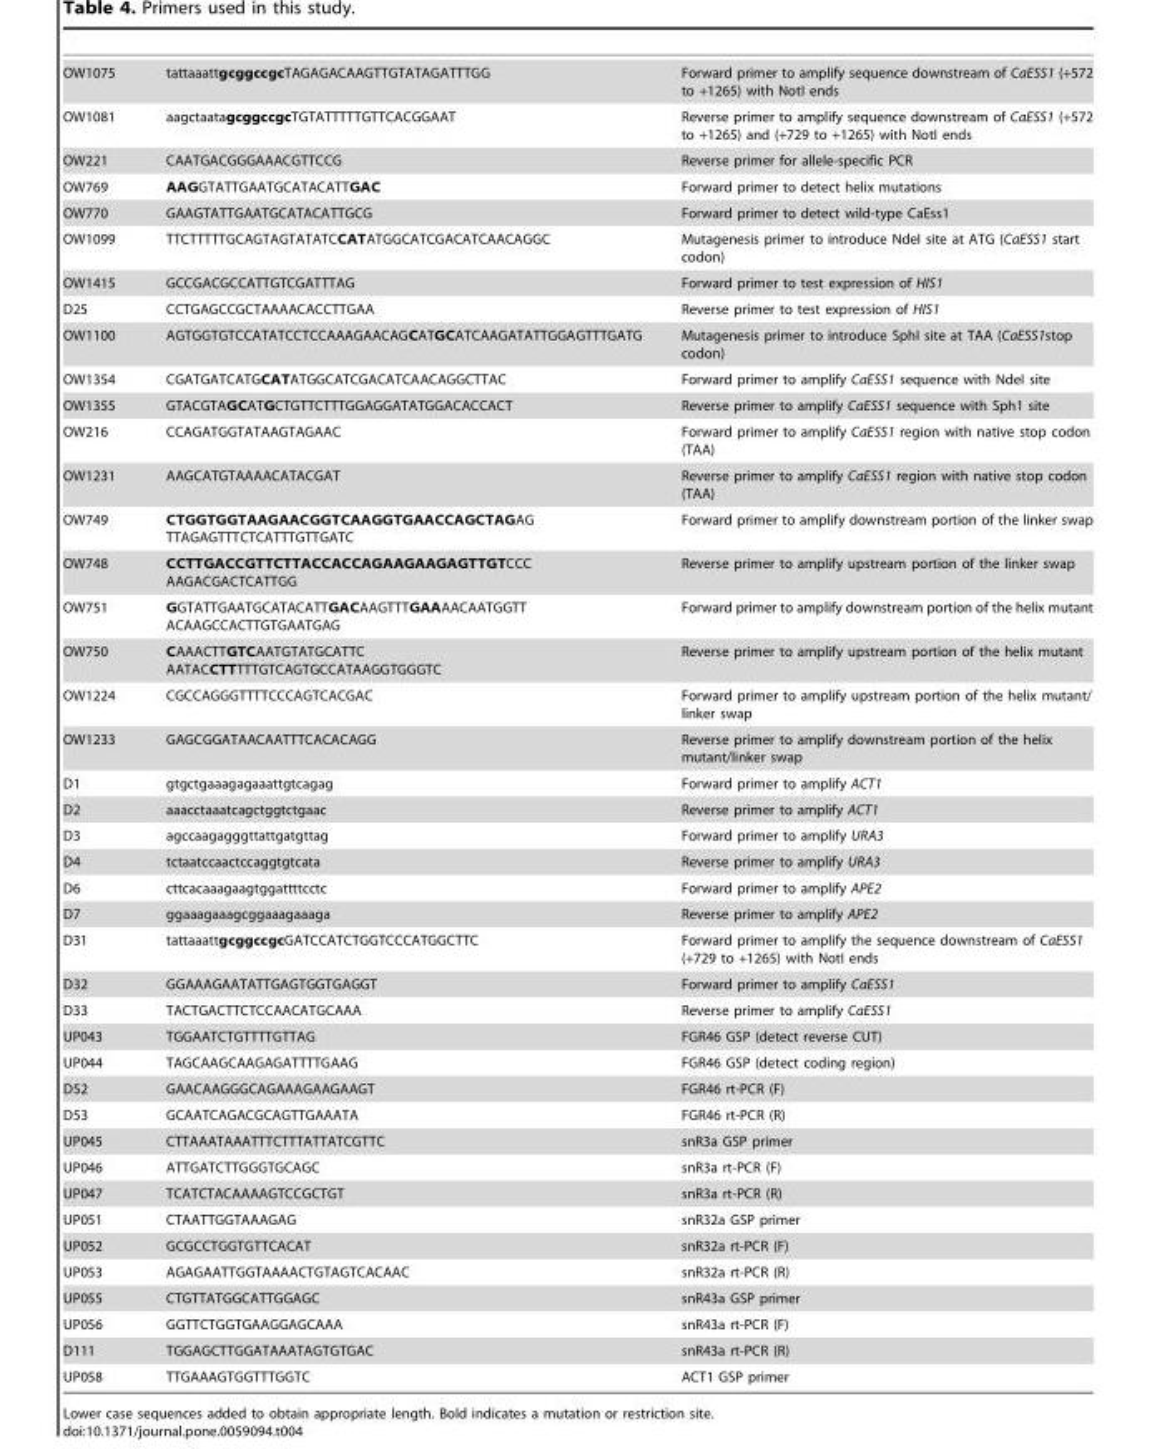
<table><tbody><tr><td>OW1075</td><td>tattaaattgcggccgcTAGAGACAAGTTGTATAGATTTGG</td><td>Forward primer to amplify sequence downstream of CaESS1 (+572 to +1265) with NotI ends</td></tr><tr><td>OW1081</td><td>aagctaatagcggccgcTGTATTTTTGTTCACGGAAT</td><td>Reverse primer to amplify sequence downstream of CaESS1 (+572 to +1265) and (+729 to +1265) with NotI ends</td></tr><tr><td>OW221</td><td>CAATGACGGGAAACGTTCCG</td><td>Reverse primer for allele-specific PCR</td></tr><tr><td>OW769</td><td>AAGGTATTGAATGCATACATTGAC</td><td>Forward primer to detect helix mutations</td></tr><tr><td>OW770</td><td>GAAGTATTGAATGCATACATTGCG</td><td>Forward primer to detect wild-type CaEss1</td></tr><tr><td>OW1099</td><td>TTCTTTTTGCAGTAGTATATCCATATGGCATCGACATCAACAGGC</td><td>Mutagenesis primer to introduce NdeI site at ATG (CaESS1 start codon)</td></tr><tr><td>OW1415</td><td>GCCGACGCCATTGTCGATTTAG</td><td>Forward primer to test expression of HIS1</td></tr><tr><td>D25</td><td>CCTGAGCCGCTAAAACACCTTGAA</td><td>Reverse primer to test expression of HIS1</td></tr><tr><td>OW1100</td><td>AGTGGTGTCCATATCCTCCAAAGAACAGCATGCATCAAGATATTGGAGTTTGATG</td><td>Mutagenesis primer to introduce SphI site at TAA (CaESS1stop codon)</td></tr><tr><td>OW1354</td><td>CGATGATCATGCATATGGCATCGACATCAACAGGCTTAC</td><td>Forward primer to amplify CaESS1 sequence with NdeI site</td></tr><tr><td>OW1355</td><td>GTACGTAGCATGCTGTTCTTTGGAGGATATGGACACCACT</td><td>Reverse primer to amplify CaESS1 sequence with Sph1 site</td></tr><tr><td>OW216</td><td>CCAGATGGTATAAGTAGAAC</td><td>Forward primer to amplify CaESS1 region with native stop codon (TAA)</td></tr><tr><td>OW1231</td><td>AAGCATGTAAAACATACGAT</td><td>Reverse primer to amplify CaESS1 region with native stop codon (TAA)</td></tr><tr><td>OW749</td><td>CTGGTGGTAAGAACGGTCAAGGTGAACCAGCTAGAG TTAGAGTTTCTCATTTGTTGATC</td><td>Forward primer to amplify downstream portion of the linker swap</td></tr><tr><td>OW748</td><td>CCTTGACCGTTCTTACCACCAGAAGAAGAGTTGTCCC AAGACGACTCATTGG</td><td>Reverse primer to amplify upstream portion of the linker swap</td></tr><tr><td>OW751</td><td>GGTATTGAATGCATACATTGACAAGTTTGAAAACAATGGTT ACAAGCCACTTGTGAATGAG</td><td>Forward primer to amplify downstream portion of the helix mutant</td></tr><tr><td>OW750</td><td>CAAACTTGTCAATGTATGCATTC AATACCTTTTTGTCAGTGCCATAAGGTGGGTC</td><td>Reverse primer to amplify upstream portion of the helix mutant</td></tr><tr><td>OW1224</td><td>CGCCAGGGTTTTCCCAGTCACGAC</td><td>Forward primer to amplify upstream portion of the helix mutant/ linker swap</td></tr><tr><td>OW1233</td><td>GAGCGGATAACAATTTCACACAGG</td><td>Reverse primer to amplify downstream portion of the helix mutant/linker swap</td></tr><tr><td>D1</td><td>gtgctgaaagagaaattgtcagag</td><td>Forward primer to amplify ACT1</td></tr><tr><td>D2</td><td>aaacctaaatcagctggtctgaac</td><td>Reverse primer to amplify ACT1</td></tr><tr><td>D3</td><td>agccaagagggttattgatgttag</td><td>Forward primer to amplify URA3</td></tr><tr><td>D4</td><td>tctaatccaactccaggtgtcata</td><td>Reverse primer to amplify URA3</td></tr><tr><td>D6</td><td>cttcacaaagaagtggattttcctc</td><td>Forward primer to amplify APE2</td></tr><tr><td>D7</td><td>ggaaagaaagcggaaagaaaga</td><td>Reverse primer to amplify APE2</td></tr><tr><td>D31</td><td>tattaaattgcggccgcGATCCATCTGGTCCCATGGCTTC</td><td>Forward primer to amplify the sequence downstream of CaESS1 (+729 to +1265) with NotI ends</td></tr><tr><td>D32</td><td>GGAAAGAATATTGAGTGGTGAGGT</td><td>Forward primer to amplify CaESS1</td></tr><tr><td>D33</td><td>TACTGACTTCTCCAACATGCAAA</td><td>Reverse primer to amplify CaESS1</td></tr><tr><td>UP043</td><td>TGGAATCTGTTTTGTTAG</td><td>FGR46 GSP (detect reverse CUT)</td></tr><tr><td>UP044</td><td>TAGCAAGCAAGAGATTTTGAAG</td><td>FGR46 GSP (detect coding region)</td></tr><tr><td>D52</td><td>GAACAAGGGCAGAAAGAAGAAGT</td><td>FGR46 rt-PCR (F)</td></tr><tr><td>D53</td><td>GCAATCAGACGCAGTTGAAATA</td><td>FGR46 rt-PCR (R)</td></tr><tr><td>UP045</td><td>CTTAAATAAATTTCTTTATTATCGTTC</td><td>snR3a GSP primer</td></tr><tr><td>UP046</td><td>ATTGATCTTGGGTGCAGC</td><td>snR3a rt-PCR (F)</td></tr><tr><td>UP047</td><td>TCATCTACAAAAGTCCGCTGT</td><td>snR3a rt-PCR (R)</td></tr><tr><td>UP051</td><td>CTAATTGGTAAAGAG</td><td>snR32a GSP primer</td></tr><tr><td>UP052</td><td>GCGCCTGGTGTTCACAT</td><td>snR32a rt-PCR (F)</td></tr><tr><td>UP053</td><td>AGAGAATTGGTAAAACTGTAGTCACAAC</td><td>snR32a rt-PCR (R)</td></tr><tr><td>UP055</td><td>CTGTTATGGCATTGGAGC</td><td>snR43a GSP primer</td></tr><tr><td>UP056</td><td>GGTTCTGGTGAAGGAGCAAA</td><td>snR43a rt-PCR (F)</td></tr><tr><td>D111</td><td>TGGAGCTTGGATAAATAGTGTGAC</td><td>snR43a rt-PCR (R)</td></tr><tr><td>UP058</td><td>TTGAAAGTGGTTTGGTC</td><td>ACT1 GSP primer</td></tr></tbody></table>